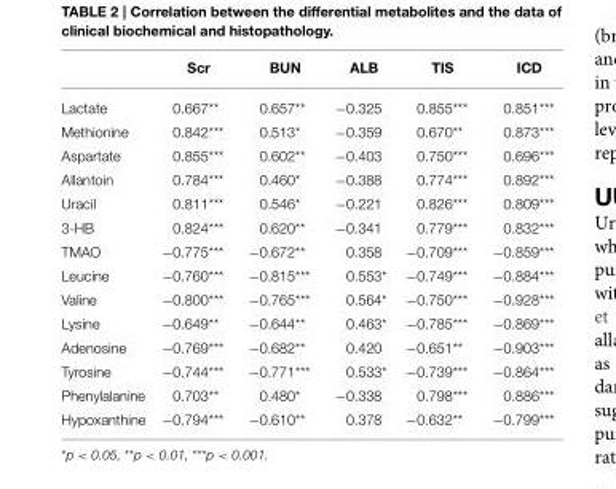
<table><thead><tr><td></td><td>Scr</td><td>BUN</td><td>ALB</td><td>TIS</td><td>ICD</td></tr></thead><tbody><tr><td>Lactate</td><td>0.667**</td><td>0.657**</td><td>−0.325</td><td>0.855***</td><td>0.851***</td></tr><tr><td>Methionine</td><td>0.842***</td><td>0.513*</td><td>−0.359</td><td>0.670**</td><td>0.873***</td></tr><tr><td>Aspartate</td><td>0.855***</td><td>0.602**</td><td>−0.403</td><td>0.750***</td><td>0.696***</td></tr><tr><td>Allantoin</td><td>0.784***</td><td>0.460*</td><td>−0.388</td><td>0.774***</td><td>0.892***</td></tr><tr><td>Uracil</td><td>0.811***</td><td>0.546*</td><td>−0.221</td><td>0.826***</td><td>0.809***</td></tr><tr><td>3-HB</td><td>0.824***</td><td>0.620**</td><td>−0.341</td><td>0.779***</td><td>0.832***</td></tr><tr><td>TMAO</td><td>−0.775***</td><td>−0.672**</td><td>0.358</td><td>−0.709***</td><td>−0.859***</td></tr><tr><td>Leucine</td><td>−0.760***</td><td>−0.815***</td><td>0.553*</td><td>−0.749***</td><td>−0.884***</td></tr><tr><td>Valine</td><td>−0.800***</td><td>−0.765***</td><td>0.564*</td><td>−0.750***</td><td>−0.928***</td></tr><tr><td>Lysine</td><td>−0.649**</td><td>−0.644**</td><td>0.463*</td><td>−0.785***</td><td>−0.869***</td></tr><tr><td>Adenosine</td><td>−0.769***</td><td>−0.682**</td><td>0.420</td><td>−0.651**</td><td>−0.903***</td></tr><tr><td>Tyrosine</td><td>−0.744***</td><td>−0.771***</td><td>0.533*</td><td>−0.739***</td><td>−0.864***</td></tr><tr><td>Phenylalanine</td><td>0.703**</td><td>0.480*</td><td>−0.338</td><td>0.798***</td><td>0.886***</td></tr><tr><td>Hypoxanthine</td><td>−0.794***</td><td>−0.610**</td><td>0.378</td><td>−0.632**</td><td>−0.799***</td></tr></tbody></table>